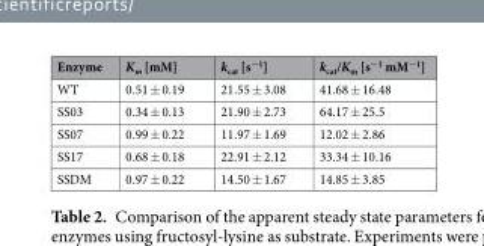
<table><thead><tr><td>Enzyme</td><td>K<sub>m</sub> [mM]</td><td>k<sub>cat</sub> [s<sup>−1</sup>]</td><td>k<sub>cat</sub>/K<sub>m</sub> [s<sup>−1</sup> mM<sup>−1</sup>]</td></tr></thead><tbody><tr><td>WT</td><td>0.51 ± 0.19</td><td>21.55 ± 3.08</td><td>41.68 ± 16.48</td></tr><tr><td>SS03</td><td>0.34 ± 0.13</td><td>21.90 ± 2.73</td><td>64.17 ± 25.5</td></tr><tr><td>SS07</td><td>0.99 ± 0.22</td><td>11.97 ± 1.69</td><td>12.02 ± 2.86</td></tr><tr><td>SS17</td><td>0.68 ± 0.18</td><td>22.91 ± 2.12</td><td>33.34 ± 10.16</td></tr><tr><td>SSDM</td><td>0.97 ± 0.22</td><td>14.50 ± 1.67</td><td>14.85 ± 3.85</td></tr></tbody></table>